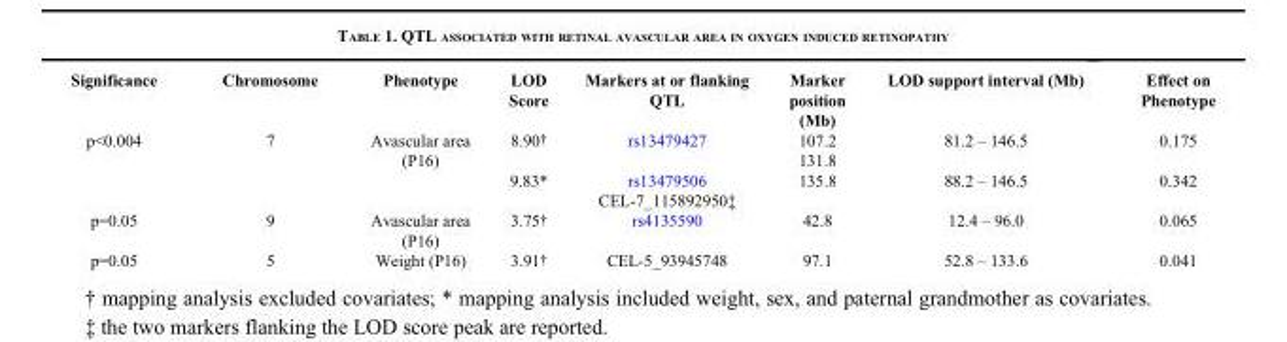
<table><thead><tr><td>Significance</td><td>Chromosome</td><td>Phenotype</td><td>LOD Score</td><td>Markers at or flanking QTL</td><td>Marker position (Mb)</td><td>LOD support interval (Mb)</td><td>Effect on Phenotype</td></tr></thead><tbody><tr><td rowspan="2">p&lt;0.004</td><td>7</td><td>Avascular area (P16)</td><td>8.90<sup>†</sup></td><td>rs13479427</td><td>107.2 131.8</td><td>81.2 – 146.5</td><td>0.175</td></tr><tr><td></td><td></td><td>9.83*</td><td>rs13479506 CEL-7_115892950‡</td><td>135.8</td><td>88.2 – 146.5</td><td>0.342</td></tr><tr><td>p=0.05</td><td>9</td><td>Avascular area (P16)</td><td>3.75<sup>†</sup></td><td>rs4135590</td><td>42.8</td><td>12.4 – 96.0</td><td>0.065</td></tr><tr><td>p=0.05</td><td>5</td><td>Weight (P16)</td><td>3.91<sup>†</sup></td><td>CEL-5_93945748</td><td>97.1</td><td>52.8 – 133.6</td><td>0.041</td></tr></tbody></table>